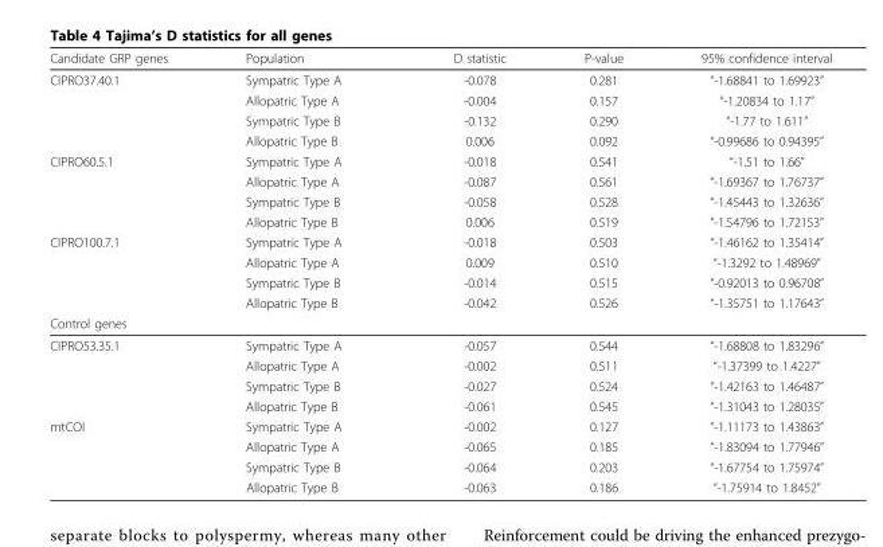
<table><thead><tr><td>Candidate GRP genes</td><td>Population</td><td>D statistic</td><td>P-value</td><td>95% confidence interval</td></tr></thead><tbody><tr><td rowspan="4">CIPRO37.40.1</td><td>Sympatric Type A</td><td>-0.078</td><td>0.281</td><td>“-1.68841 to 1.69923”</td></tr><tr><td>Allopatric Type A</td><td>-0.004</td><td>0.157</td><td>“-1.20834 to 1.17”</td></tr><tr><td>Sympatric Type B</td><td>-0.132</td><td>0.290</td><td>“-1.77 to 1.611”</td></tr><tr><td>Allopatric Type B</td><td>0.006</td><td>0.092</td><td>“-0.99686 to 0.94395”</td></tr><tr><td rowspan="4">CIPRO60.5.1</td><td>Sympatric Type A</td><td>-0.018</td><td>0.541</td><td>“-1.51 to 1.66”</td></tr><tr><td>Allopatric Type A</td><td>-0.087</td><td>0.561</td><td>“-1.69367 to 1.76737”</td></tr><tr><td>Sympatric Type B</td><td>-0.058</td><td>0.528</td><td>“-1.45443 to 1.32636”</td></tr><tr><td>Allopatric Type B</td><td>0.006</td><td>0.519</td><td>“-1.54796 to 1.72153”</td></tr><tr><td rowspan="4">CIPRO100.7.1</td><td>Sympatric Type A</td><td>-0.018</td><td>0.503</td><td>“-1.46162 to 1.35414”</td></tr><tr><td>Allopatric Type A</td><td>0.009</td><td>0.510</td><td>“-1.3292 to 1.48969”</td></tr><tr><td>Sympatric Type B</td><td>-0.014</td><td>0.515</td><td>“-0.92013 to 0.96708”</td></tr><tr><td>Allopatric Type B</td><td>-0.042</td><td>0.526</td><td>“-1.35751 to 1.17643”</td></tr><tr><td colspan="5">Control genes</td></tr><tr><td rowspan="4">CIPRO53.35.1</td><td>Sympatric Type A</td><td>-0.057</td><td>0.544</td><td>“-1.68808 to 1.83296”</td></tr><tr><td>Allopatric Type A</td><td>-0.002</td><td>0.511</td><td>“-1.37399 to 1.4227”</td></tr><tr><td>Sympatric Type B</td><td>-0.027</td><td>0.524</td><td>“-1.42163 to 1.46487”</td></tr><tr><td>Allopatric Type B</td><td>-0.061</td><td>0.545</td><td>“-1.31043 to 1.28035”</td></tr><tr><td rowspan="4">mtCOI</td><td>Sympatric Type A</td><td>-0.002</td><td>0.127</td><td>“-1.11173 to 1.43863”</td></tr><tr><td>Allopatric Type A</td><td>-0.065</td><td>0.185</td><td>“-1.83094 to 1.77946”</td></tr><tr><td>Sympatric Type B</td><td>-0.064</td><td>0.203</td><td>“-1.67754 to 1.75974”</td></tr><tr><td>Allopatric Type B</td><td>-0.063</td><td>0.186</td><td>“-1.75914 to 1.8452”</td></tr></tbody></table>